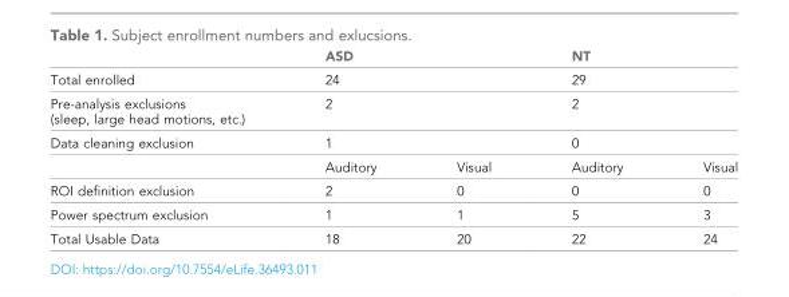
<table><thead><tr><td></td><td colspan="2">ASD</td><td colspan="2">NT</td></tr></thead><tbody><tr><td>Total enrolled</td><td colspan="2">24</td><td colspan="2">29</td></tr><tr><td>Pre-analysis exclusions (sleep, large head motions, etc.)</td><td colspan="2">2</td><td colspan="2">2</td></tr><tr><td rowspan="2">Data cleaning exclusion</td><td colspan="2">1</td><td colspan="2">0</td></tr><tr><td>Auditory</td><td>Visual</td><td>Auditory</td><td>Visual</td></tr><tr><td>ROI definition exclusion</td><td>2</td><td>0</td><td>0</td><td>0</td></tr><tr><td>Power spectrum exclusion</td><td>1</td><td>1</td><td>5</td><td>3</td></tr><tr><td>Total Usable Data</td><td>18</td><td>20</td><td>22</td><td>24</td></tr></tbody></table>